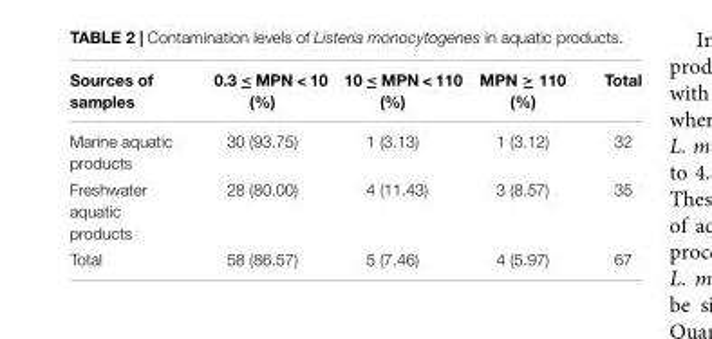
<table><thead><tr><td>Sources of samples</td><td>0.3 ≤ MPN &lt; 10 (%)</td><td>10 ≤ MPN &lt; 110 (%)</td><td>MPN ≥ 110 (%)</td><td>Total</td></tr></thead><tbody><tr><td>Marine aquatic products</td><td>30 (93.75)</td><td>1 (3.13)</td><td>1 (3.12)</td><td>32</td></tr><tr><td>Freshwater aquatic products</td><td>28 (80.00)</td><td>4 (11.43)</td><td>3 (8.57)</td><td>35</td></tr><tr><td>Total</td><td>58 (86.57)</td><td>5 (7.46)</td><td>4 (5.97)</td><td>67</td></tr></tbody></table>